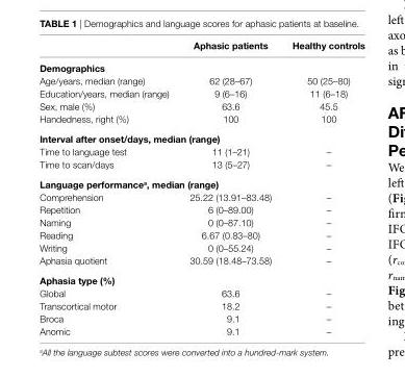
<table><thead><tr><td></td><td>aphasic patients</td><td>healthy controls</td></tr></thead><tbody><tr><td colspan="3">Demographics</td></tr><tr><td>Age/years, median (range)</td><td>62 (28–67)</td><td>50 (25–80)</td></tr><tr><td>Education/years, median (range)</td><td>9 (6–16)</td><td>11 (6–18)</td></tr><tr><td>Sex, male (%)</td><td>63.6</td><td>45.5</td></tr><tr><td>Handedness, right (%)</td><td>100</td><td>100</td></tr><tr><td colspan="3">interval after onset/days, median (range)</td></tr><tr><td>Time to language test</td><td>11 (1–21)</td><td>–</td></tr><tr><td>Time to scan/days</td><td>13 (5–27)</td><td>–</td></tr><tr><td colspan="3">language performance<sup>a</sup>, median (range)</td></tr><tr><td>Comprehension</td><td>25.22 (13.91–83.48)</td><td>–</td></tr><tr><td>Repetition</td><td>6 (0–89.00)</td><td>–</td></tr><tr><td>Naming</td><td>0 (0–87.10)</td><td>–</td></tr><tr><td>Reading</td><td>6.67 (0.83–80)</td><td>–</td></tr><tr><td>Writing</td><td>0 (0–55.24)</td><td>–</td></tr><tr><td>Aphasia quotient</td><td>30.59 (18.48–73.58)</td><td>–</td></tr><tr><td colspan="3">aphasia type (%)</td></tr><tr><td>Global</td><td>63.6</td><td>–</td></tr><tr><td>Transcortical motor</td><td>18.2</td><td>–</td></tr><tr><td>Broca</td><td>9.1</td><td>–</td></tr><tr><td>Anomic</td><td>9.1</td><td>–</td></tr></tbody></table>